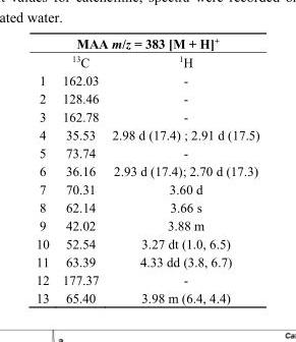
<table><thead><tr><td colspan="3">MAA m/z = 383 [M + H]<sup>+</sup></td></tr><tr><td></td><td><sup>13</sup>C</td><td><sup>1</sup>H</td></tr></thead><tbody><tr><td>1</td><td>162.03</td><td>-</td></tr><tr><td>2</td><td>128.46</td><td>-</td></tr><tr><td>3</td><td>162.78</td><td>-</td></tr><tr><td>4</td><td>35.53</td><td>2.98 d (17.4) ; 2.91 d (17.5)</td></tr><tr><td>5</td><td>73.74</td><td>-</td></tr><tr><td>6</td><td>36.16</td><td>2.93 d (17.4); 2.70 d (17.3)</td></tr><tr><td>7</td><td>70.31</td><td>3.60 d</td></tr><tr><td>8</td><td>62.14</td><td>3.66 s</td></tr><tr><td>9</td><td>42.02</td><td>3.88 m</td></tr><tr><td>10</td><td>52.54</td><td>3.27 dt (1.0, 6.5)</td></tr><tr><td>11</td><td>63.39</td><td>4.33 dd (3.8, 6.7)</td></tr><tr><td>12</td><td>177.37</td><td>-</td></tr><tr><td>13</td><td>65.40</td><td>3.98 m (6.4, 4.4)</td></tr></tbody></table>